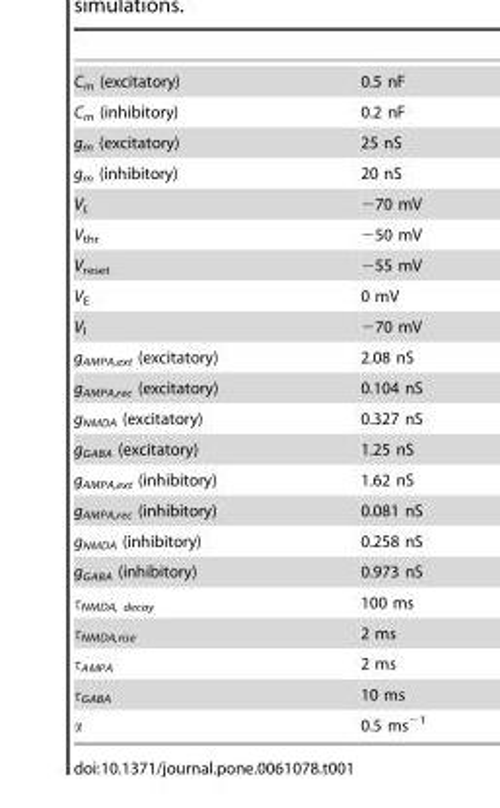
<table><tbody><tr><td>C<sub>m</sub> (excitatory)</td><td>0.5 nF</td></tr><tr><td>C<sub>m</sub> (inhibitory)</td><td>0.2 nF</td></tr><tr><td>g<sub>m</sub> (excitatory)</td><td>25 nS</td></tr><tr><td>g<sub>m</sub> (inhibitory)</td><td>20 nS</td></tr><tr><td>V<sub>L</sub></td><td>−70 mV</td></tr><tr><td>V<sub>thr</sub></td><td>−50 mV</td></tr><tr><td>V<sub>reset</sub></td><td>−55 mV</td></tr><tr><td>V<sub>E</sub></td><td>0 mV</td></tr><tr><td>V<sub>I</sub></td><td>−70 mV</td></tr><tr><td>g<sub>AMPA,ext</sub> (excitatory)</td><td>2.08 nS</td></tr><tr><td>g<sub>AMPA,rec</sub> (excitatory)</td><td>0.104 nS</td></tr><tr><td>g<sub>NMDA</sub> (excitatory)</td><td>0.327 nS</td></tr><tr><td>g<sub>GABA</sub> (excitatory)</td><td>1.25 nS</td></tr><tr><td>g<sub>AMPA,ext</sub> (inhibitory)</td><td>1.62 nS</td></tr><tr><td>g<sub>AMPA,rec</sub> (inhibitory)</td><td>0.081 nS</td></tr><tr><td>g<sub>NMDA</sub> (inhibitory)</td><td>0.258 nS</td></tr><tr><td>g<sub>GABA</sub> (inhibitory)</td><td>0.973 nS</td></tr><tr><td>τ<sub>NMDA, decay</sub></td><td>100 ms</td></tr><tr><td>τ<sub>NMDA,rise</sub></td><td>2 ms</td></tr><tr><td>τ<sub>AMPA</sub></td><td>2 ms</td></tr><tr><td>τ<sub>GABA</sub></td><td>10 ms</td></tr><tr><td>α</td><td>0.5 ms<sup>−1</sup></td></tr></tbody></table>